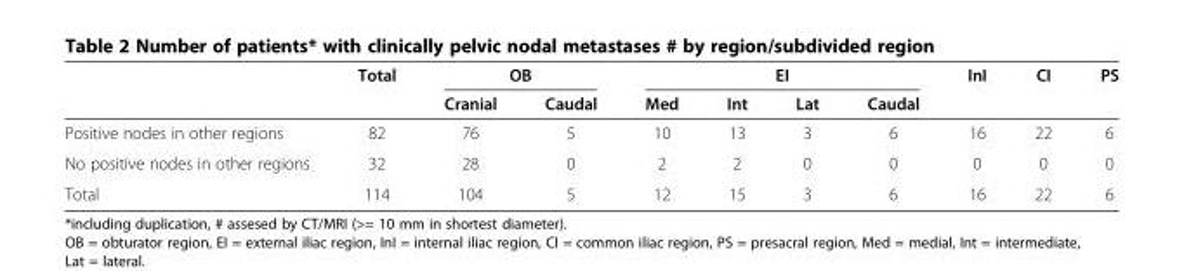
<table><thead><tr><td rowspan="2"></td><td rowspan="2">Total</td><td colspan="2">OB</td><td colspan="4">EI</td><td rowspan="2">InI</td><td rowspan="2">CI</td><td rowspan="2">PS</td></tr><tr><td>Cranial</td><td>Caudal</td><td>Med</td><td>Int</td><td>Lat</td><td>Caudal</td></tr></thead><tbody><tr><td>Positive nodes in other regions</td><td>82</td><td>76</td><td>5</td><td>10</td><td>13</td><td>3</td><td>6</td><td>16</td><td>22</td><td>6</td></tr><tr><td>No positive nodes in other regions</td><td>32</td><td>28</td><td>0</td><td>2</td><td>2</td><td>0</td><td>0</td><td>0</td><td>0</td><td>0</td></tr><tr><td>Total</td><td>114</td><td>104</td><td>5</td><td>12</td><td>15</td><td>3</td><td>6</td><td>16</td><td>22</td><td>6</td></tr></tbody></table>